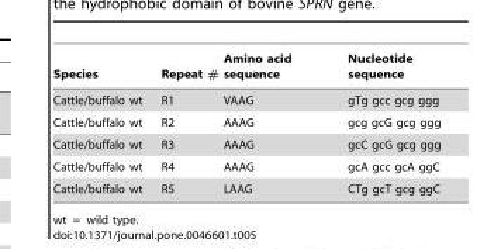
<table><thead><tr><td>Species</td><td>Repeat #</td><td>Amino acid sequence</td><td>Nucleotide sequence</td></tr></thead><tbody><tr><td>Cattle/buffalo wt</td><td>R1</td><td>VAAG</td><td>gTg gcc gcg ggg</td></tr><tr><td>Cattle/buffalo wt</td><td>R2</td><td>AAAG</td><td>gcg gcG gcg ggg</td></tr><tr><td>Cattle/buffalo wt</td><td>R3</td><td>AAAG</td><td>gcC gcG gcg ggg</td></tr><tr><td>Cattle/buffalo wt</td><td>R4</td><td>AAAG</td><td>gcA gcc gcA ggC</td></tr><tr><td>Cattle/buffalo wt</td><td>R5</td><td>LAAG</td><td>CTg gcT gcg ggC</td></tr></tbody></table>